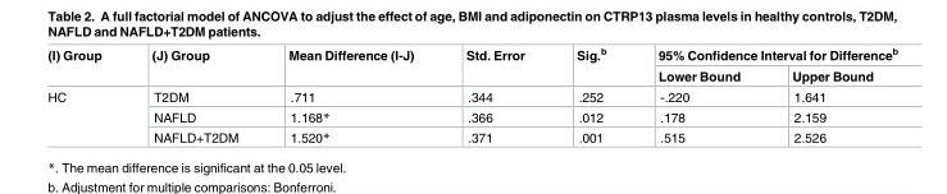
<table><thead><tr><td rowspan="2">(I) Group</td><td rowspan="2">(J) Group</td><td rowspan="2">Mean Difference (I-J)</td><td rowspan="2">Std. Error</td><td rowspan="2">Sig.<sup>b</sup></td><td colspan="2">95% Confidence Interval for Difference<sup>b</sup></td></tr><tr><td>Lower Bound</td><td>Upper Bound</td></tr></thead><tbody><tr><td rowspan="3">HC</td><td>T2DM</td><td>.711</td><td>.344</td><td>.252</td><td>-.220</td><td>1.641</td></tr><tr><td>NAFLD</td><td>1.168*</td><td>.366</td><td>.012</td><td>.178</td><td>2.159</td></tr><tr><td>NAFLD+T2DM</td><td>1.520*</td><td>.371</td><td>.001</td><td>.515</td><td>2.526</td></tr></tbody></table>